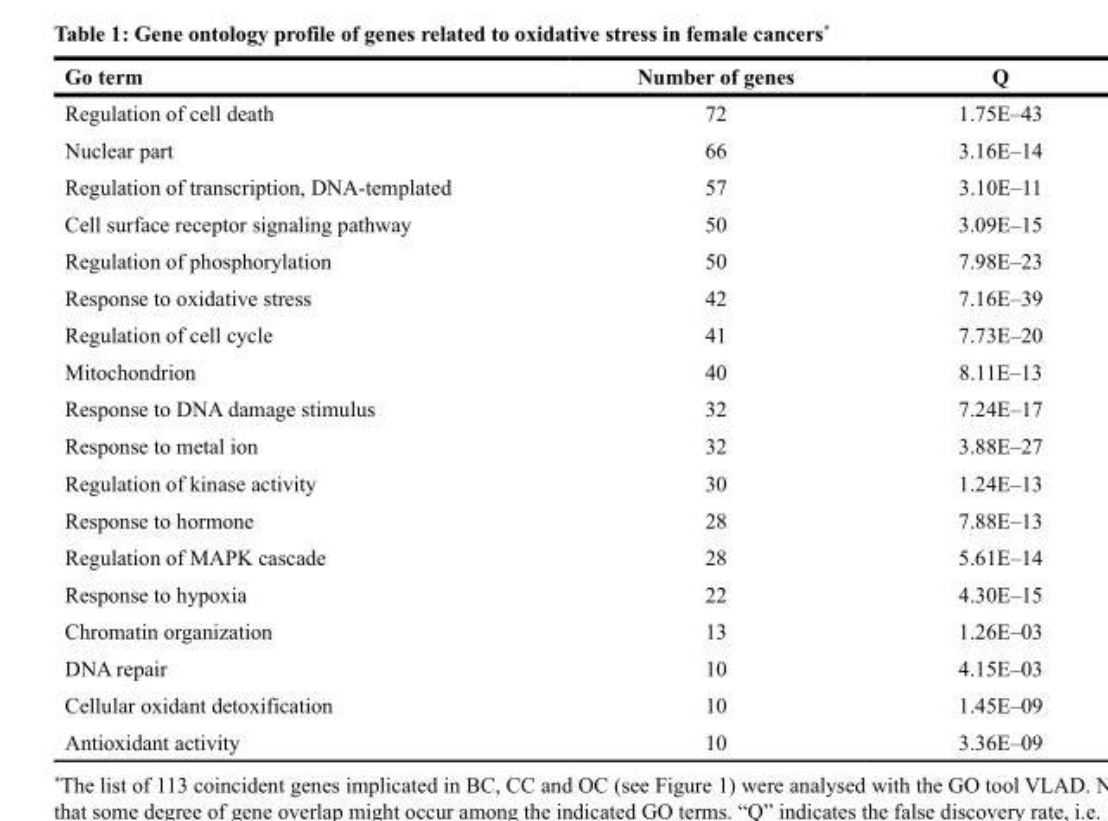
<table><thead><tr><td>Go term</td><td>Number of genes</td><td>Q</td></tr></thead><tbody><tr><td>Regulation of cell death</td><td>72</td><td>1.75E–43</td></tr><tr><td>Nuclear part</td><td>66</td><td>3.16E–14</td></tr><tr><td>Regulation of transcription, DNA-templated</td><td>57</td><td>3.10E–11</td></tr><tr><td>Cell surface receptor signaling pathway</td><td>50</td><td>3.09E–15</td></tr><tr><td>Regulation of phosphorylation</td><td>50</td><td>7.98E–23</td></tr><tr><td>Response to oxidative stress</td><td>42</td><td>7.16E–39</td></tr><tr><td>Regulation of cell cycle</td><td>41</td><td>7.73E–20</td></tr><tr><td>Mitochondrion</td><td>40</td><td>8.11E–13</td></tr><tr><td>Response to DNA damage stimulus</td><td>32</td><td>7.24E–17</td></tr><tr><td>Response to metal ion</td><td>32</td><td>3.88E–27</td></tr><tr><td>Regulation of kinase activity</td><td>30</td><td>1.24E–13</td></tr><tr><td>Response to hormone</td><td>28</td><td>7.88E–13</td></tr><tr><td>Regulation of MAPK cascade</td><td>28</td><td>5.61E–14</td></tr><tr><td>Response to hypoxia</td><td>22</td><td>4.30E–15</td></tr><tr><td>Chromatin organization</td><td>13</td><td>1.26E–03</td></tr><tr><td>DNA repair</td><td>10</td><td>4.15E–03</td></tr><tr><td>Cellular oxidant detoxification</td><td>10</td><td>1.45E–09</td></tr><tr><td>Antioxidant activity</td><td>10</td><td>3.36E–09</td></tr></tbody></table>